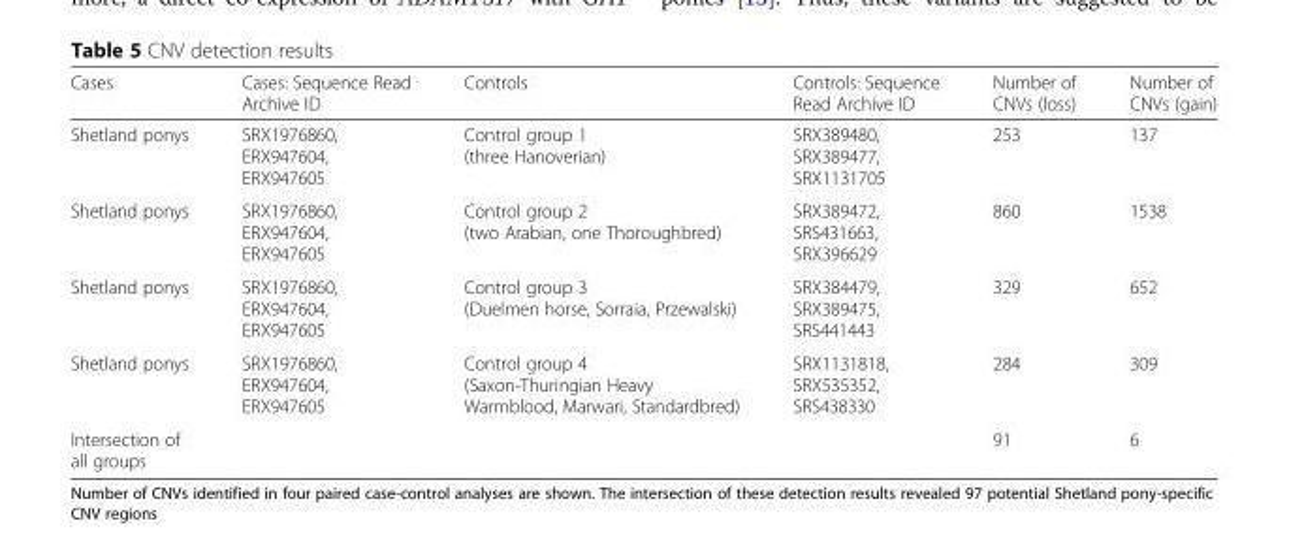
<table><thead><tr><td>Cases</td><td>Cases: Sequence Read Archive ID</td><td>Controls</td><td>Controls: Sequence Read Archive ID</td><td>Number of CNVs (loss)</td><td>Number of CNVs (gain)</td></tr></thead><tbody><tr><td>Shetland ponys</td><td>SRX1976860, ERX947604, ERX947605</td><td>Control group 1 (three Hanoverian)</td><td>SRX389480, SRX389477, SRX1131705</td><td>253</td><td>137</td></tr><tr><td>Shetland ponys</td><td>SRX1976860, ERX947604, ERX947605</td><td>Control group 2 (two Arabian, one Thoroughbred)</td><td>SRX389472, SRS431663, SRX396629</td><td>860</td><td>1538</td></tr><tr><td>Shetland ponys</td><td>SRX1976860, ERX947604, ERX947605</td><td>Control group 3 (Duelmen horse, Sorraia, Przewalski)</td><td>SRX384479, SRX389475, SRS441443</td><td>329</td><td>652</td></tr><tr><td>Shetland ponys</td><td>SRX1976860, ERX947604, ERX947605</td><td>Control group 4 (Saxon-Thuringian Heavy Warmblood, Marwari, Standardbred)</td><td>SRX1131818, SRX535352, SRS438330</td><td>284</td><td>309</td></tr><tr><td>Intersection of all groups</td><td></td><td></td><td></td><td>91</td><td>6</td></tr></tbody></table>